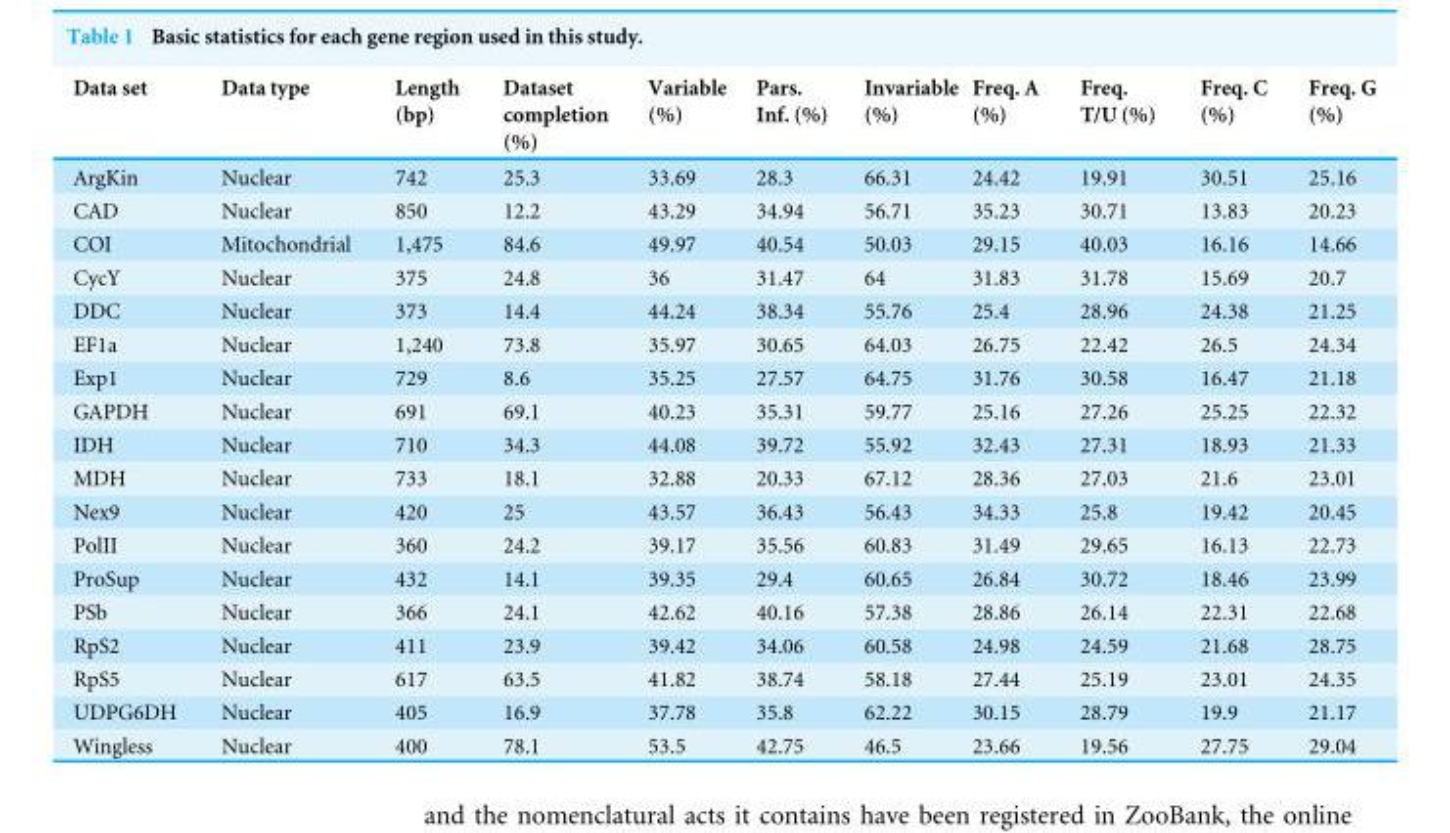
<table><thead><tr><td>Data set</td><td>Data type</td><td>Length (bp)</td><td>Dataset completion (%)</td><td>Variable (%)</td><td>Pars. Inf. (%)</td><td>Invariable (%)</td><td>Freq. A (%)</td><td>Freq. T/U (%)</td><td>Freq. C (%)</td><td>Freq. G (%)</td></tr></thead><tbody><tr><td>ArgKin</td><td>Nuclear</td><td>742</td><td>25.3</td><td>33.69</td><td>28.3</td><td>66.31</td><td>24.42</td><td>19.91</td><td>30.51</td><td>25.16</td></tr><tr><td>CAD</td><td>Nuclear</td><td>850</td><td>12.2</td><td>43.29</td><td>34.94</td><td>56.71</td><td>35.23</td><td>30.71</td><td>13.83</td><td>20.23</td></tr><tr><td>COI</td><td>Mitochondrial</td><td>1,475</td><td>84.6</td><td>49.97</td><td>40.54</td><td>50.03</td><td>29.15</td><td>40.03</td><td>16.16</td><td>14.66</td></tr><tr><td>CycY</td><td>Nuclear</td><td>375</td><td>24.8</td><td>36</td><td>31.47</td><td>64</td><td>31.83</td><td>31.78</td><td>15.69</td><td>20.7</td></tr><tr><td>DDC</td><td>Nuclear</td><td>373</td><td>14.4</td><td>44.24</td><td>38.34</td><td>55.76</td><td>25.4</td><td>28.96</td><td>24.38</td><td>21.25</td></tr><tr><td>EF1a</td><td>Nuclear</td><td>1,240</td><td>73.8</td><td>35.97</td><td>30.65</td><td>64.03</td><td>26.75</td><td>22.42</td><td>26.5</td><td>24.34</td></tr><tr><td>Exp1</td><td>Nuclear</td><td>729</td><td>8.6</td><td>35.25</td><td>27.57</td><td>64.75</td><td>31.76</td><td>30.58</td><td>16.47</td><td>21.18</td></tr><tr><td>GAPDH</td><td>Nuclear</td><td>691</td><td>69.1</td><td>40.23</td><td>35.31</td><td>59.77</td><td>25.16</td><td>27.26</td><td>25.25</td><td>22.32</td></tr><tr><td>IDH</td><td>Nuclear</td><td>710</td><td>34.3</td><td>44.08</td><td>39.72</td><td>55.92</td><td>32.43</td><td>27.31</td><td>18.93</td><td>21.33</td></tr><tr><td>MDH</td><td>Nuclear</td><td>733</td><td>18.1</td><td>32.88</td><td>20.33</td><td>67.12</td><td>28.36</td><td>27.03</td><td>21.6</td><td>23.01</td></tr><tr><td>Nex9</td><td>Nuclear</td><td>420</td><td>25</td><td>43.57</td><td>36.43</td><td>56.43</td><td>34.33</td><td>25.8</td><td>19.42</td><td>20.45</td></tr><tr><td>PolII</td><td>Nuclear</td><td>360</td><td>24.2</td><td>39.17</td><td>35.56</td><td>60.83</td><td>31.49</td><td>29.65</td><td>16.13</td><td>22.73</td></tr><tr><td>ProSup</td><td>Nuclear</td><td>432</td><td>14.1</td><td>39.35</td><td>29.4</td><td>60.65</td><td>26.84</td><td>30.72</td><td>18.46</td><td>23.99</td></tr><tr><td>PSb</td><td>Nuclear</td><td>366</td><td>24.1</td><td>42.62</td><td>40.16</td><td>57.38</td><td>28.86</td><td>26.14</td><td>22.31</td><td>22.68</td></tr><tr><td>RpS2</td><td>Nuclear</td><td>411</td><td>23.9</td><td>39.42</td><td>34.06</td><td>60.58</td><td>24.98</td><td>24.59</td><td>21.68</td><td>28.75</td></tr><tr><td>RpS5</td><td>Nuclear</td><td>617</td><td>63.5</td><td>41.82</td><td>38.74</td><td>58.18</td><td>27.44</td><td>25.19</td><td>23.01</td><td>24.35</td></tr><tr><td>UDPG6DH</td><td>Nuclear</td><td>405</td><td>16.9</td><td>37.78</td><td>35.8</td><td>62.22</td><td>30.15</td><td>28.79</td><td>19.9</td><td>21.17</td></tr><tr><td>Wingless</td><td>Nuclear</td><td>400</td><td>78.1</td><td>53.5</td><td>42.75</td><td>46.5</td><td>23.66</td><td>19.56</td><td>27.75</td><td>29.04</td></tr></tbody></table>